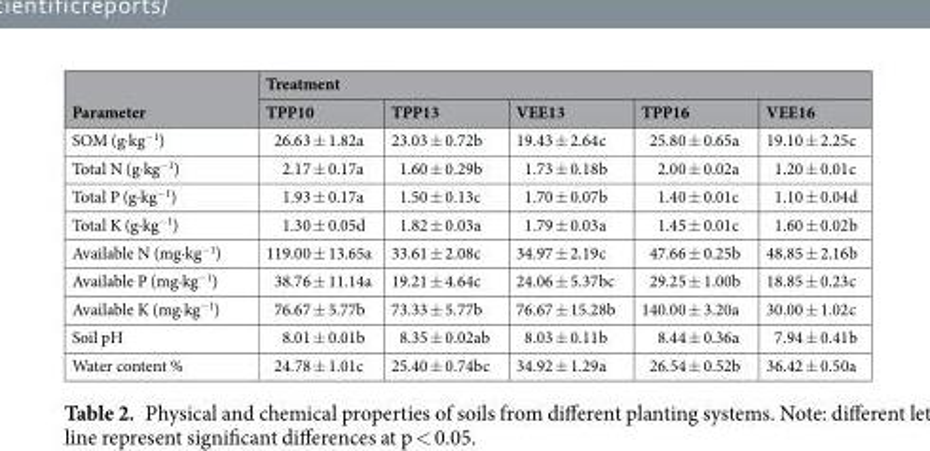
<table><thead><tr><td rowspan="2">Parameter</td><td colspan="5">Treatment</td></tr><tr><td>TPP10</td><td>TPP13</td><td>VEE13</td><td>TPP16</td><td>VEE16</td></tr></thead><tbody><tr><td>SOM (g·kg<sup>−1</sup>)</td><td>26.63 ± 1.82a</td><td>23.03 ± 0.72b</td><td>19.43 ± 2.64c</td><td>25.80 ± 0.65a</td><td>19.10 ± 2.25c</td></tr><tr><td>Total N (g·kg<sup>−1</sup>)</td><td>2.17 ± 0.17a</td><td>1.60 ± 0.29b</td><td>1.73 ± 0.18b</td><td>2.00 ± 0.02a</td><td>1.20 ± 0.01c</td></tr><tr><td>Total P (g·kg<sup>−1</sup>)</td><td>1.93 ± 0.17a</td><td>1.50 ± 0.13c</td><td>1.70 ± 0.07b</td><td>1.40 ± 0.01c</td><td>1.10 ± 0.04d</td></tr><tr><td>Total K (g·kg<sup>−1</sup>)</td><td>1.30 ± 0.05d</td><td>1.82 ± 0.03a</td><td>1.79 ± 0.03a</td><td>1.45 ± 0.01c</td><td>1.60 ± 0.02b</td></tr><tr><td>Available N (mg·kg<sup>−1</sup>)</td><td>119.00 ± 13.65a</td><td>33.61 ± 2.08c</td><td>34.97 ± 2.19c</td><td>47.66 ± 0.25b</td><td>48.85 ± 2.16b</td></tr><tr><td>Available P (mg·kg<sup>−1</sup>)</td><td>38.76 ± 11.14a</td><td>19.21 ± 4.64c</td><td>24.06 ± 5.37bc</td><td>29.25 ± 1.00b</td><td>18.85 ± 0.23c</td></tr><tr><td>Available K (mg·kg<sup>−1</sup>)</td><td>76.67 ± 5.77b</td><td>73.33 ± 5.77b</td><td>76.67 ± 15.28b</td><td>140.00 ± 3.20a</td><td>30.00 ± 1.02c</td></tr><tr><td>Soil pH</td><td>8.01 ± 0.01b</td><td>8.35 ± 0.02ab</td><td>8.03 ± 0.11b</td><td>8.44 ± 0.36a</td><td>7.94 ± 0.41b</td></tr><tr><td>Water content %</td><td>24.78 ± 1.01c</td><td>25.40 ± 0.74bc</td><td>34.92 ± 1.29a</td><td>26.54 ± 0.52b</td><td>36.42 ± 0.50a</td></tr></tbody></table>